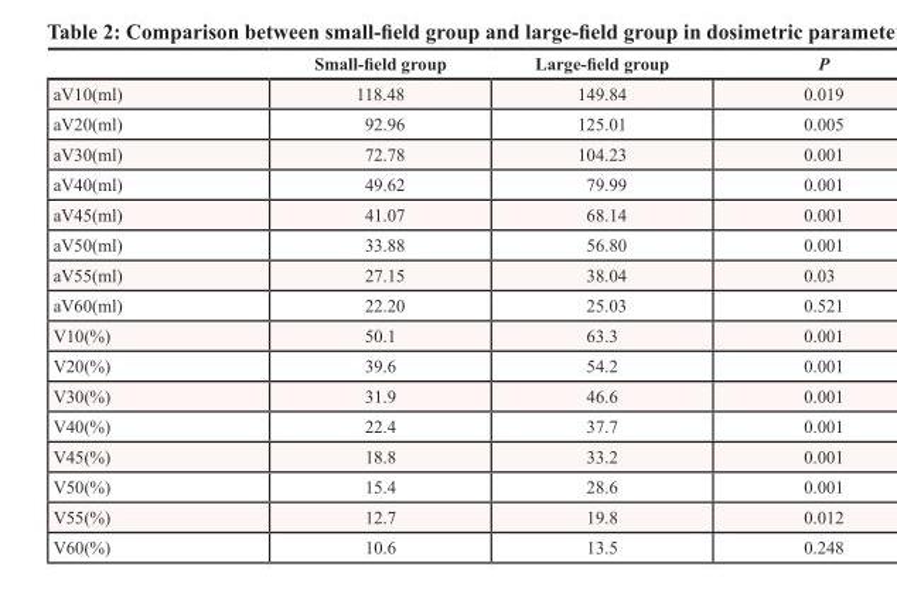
<table><thead><tr><td></td><td>Small-field group</td><td>Large-field group</td><td>P</td></tr></thead><tbody><tr><td>aV10(ml)</td><td>118.48</td><td>149.84</td><td>0.019</td></tr><tr><td>aV20(ml)</td><td>92.96</td><td>125.01</td><td>0.005</td></tr><tr><td>aV30(ml)</td><td>72.78</td><td>104.23</td><td>0.001</td></tr><tr><td>aV40(ml)</td><td>49.62</td><td>79.99</td><td>0.001</td></tr><tr><td>aV45(ml)</td><td>41.07</td><td>68.14</td><td>0.001</td></tr><tr><td>aV50(ml)</td><td>33.88</td><td>56.80</td><td>0.001</td></tr><tr><td>aV55(ml)</td><td>27.15</td><td>38.04</td><td>0.03</td></tr><tr><td>aV60(ml)</td><td>22.20</td><td>25.03</td><td>0.521</td></tr><tr><td>V10(%)</td><td>50.1</td><td>63.3</td><td>0.001</td></tr><tr><td>V20(%)</td><td>39.6</td><td>54.2</td><td>0.001</td></tr><tr><td>V30(%)</td><td>31.9</td><td>46.6</td><td>0.001</td></tr><tr><td>V40(%)</td><td>22.4</td><td>37.7</td><td>0.001</td></tr><tr><td>V45(%)</td><td>18.8</td><td>33.2</td><td>0.001</td></tr><tr><td>V50(%)</td><td>15.4</td><td>28.6</td><td>0.001</td></tr><tr><td>V55(%)</td><td>12.7</td><td>19.8</td><td>0.012</td></tr><tr><td>V60(%)</td><td>10.6</td><td>13.5</td><td>0.248</td></tr></tbody></table>